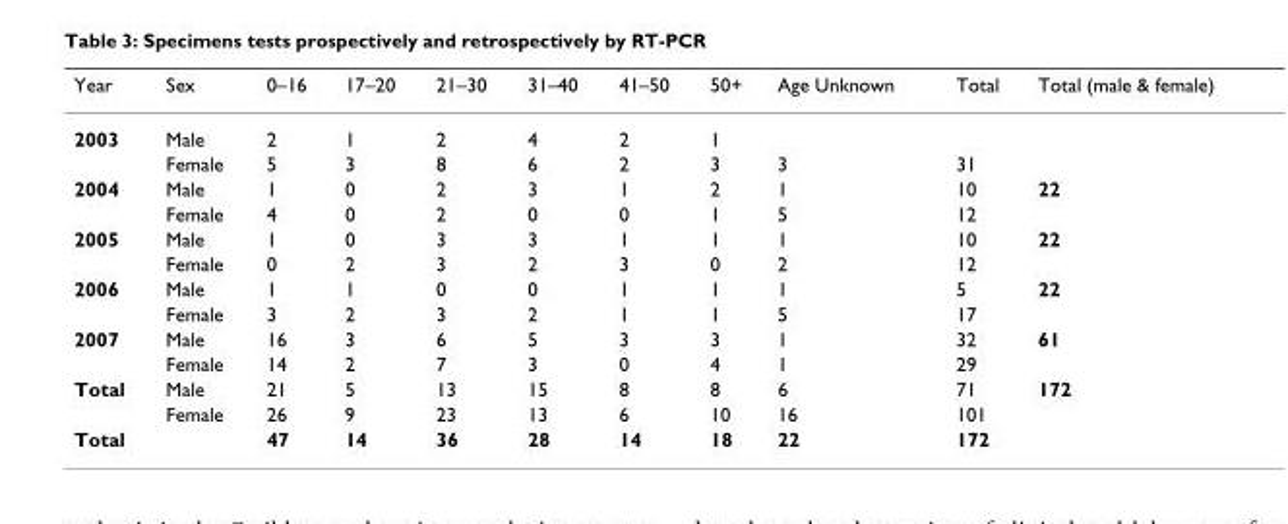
<table><thead><tr><td>Year</td><td>Sex</td><td>0–16</td><td>17–20</td><td>21–30</td><td>31–40</td><td>41–50</td><td>50+</td><td>Age Unknown</td><td>Total</td><td>Total (male &amp; female)</td></tr></thead><tbody><tr><td rowspan="2">2003</td><td>Male</td><td>2</td><td>1</td><td>2</td><td>4</td><td>2</td><td>1</td><td></td><td></td><td></td></tr><tr><td>Female</td><td>5</td><td>3</td><td>8</td><td>6</td><td>2</td><td>3</td><td>3</td><td>31</td><td></td></tr><tr><td rowspan="2">2004</td><td>Male</td><td>1</td><td>0</td><td>2</td><td>3</td><td>1</td><td>2</td><td>1</td><td>10</td><td>22</td></tr><tr><td>Female</td><td>4</td><td>0</td><td>2</td><td>0</td><td>0</td><td>1</td><td>5</td><td>12</td><td></td></tr><tr><td rowspan="2">2005</td><td>Male</td><td>1</td><td>0</td><td>3</td><td>3</td><td>1</td><td>1</td><td>1</td><td>10</td><td>22</td></tr><tr><td>Female</td><td>0</td><td>2</td><td>3</td><td>2</td><td>3</td><td>0</td><td>2</td><td>12</td><td></td></tr><tr><td rowspan="2">2006</td><td>Male</td><td>1</td><td>1</td><td>0</td><td>0</td><td>1</td><td>1</td><td>1</td><td>5</td><td>22</td></tr><tr><td>Female</td><td>3</td><td>2</td><td>3</td><td>2</td><td>1</td><td>1</td><td>5</td><td>17</td><td></td></tr><tr><td rowspan="2">2007</td><td>Male</td><td>16</td><td>3</td><td>6</td><td>5</td><td>3</td><td>3</td><td>1</td><td>32</td><td>61</td></tr><tr><td>Female</td><td>14</td><td>2</td><td>7</td><td>3</td><td>0</td><td>4</td><td>1</td><td>29</td><td></td></tr><tr><td rowspan="2">Total</td><td>Male</td><td>21</td><td>5</td><td>13</td><td>15</td><td>8</td><td>8</td><td>6</td><td>71</td><td>172</td></tr><tr><td>Female</td><td>26</td><td>9</td><td>23</td><td>13</td><td>6</td><td>10</td><td>16</td><td>101</td><td></td></tr><tr><td>Total</td><td></td><td>47</td><td>14</td><td>36</td><td>28</td><td>14</td><td>18</td><td>22</td><td>172</td><td></td></tr></tbody></table>